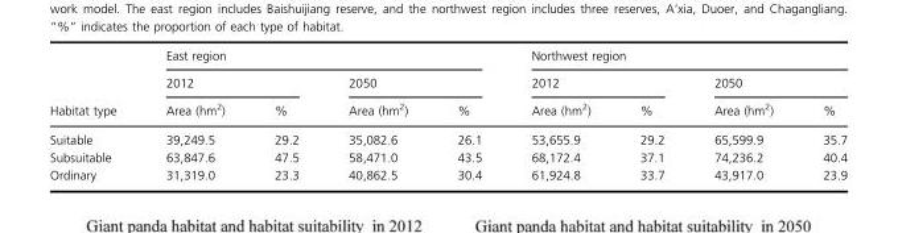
<table><thead><tr><td rowspan="3">Habitat type</td><td colspan="4">East region</td><td colspan="4">Northwest region</td></tr><tr><td colspan="2">2012</td><td colspan="2">2050</td><td colspan="2">2012</td><td colspan="2">2050</td></tr><tr><td>Area (hm<sup>2</sup>)</td><td>%</td><td>Area (hm<sup>2</sup>)</td><td>%</td><td>Area (hm<sup>2</sup>)</td><td>%</td><td>Area (hm<sup>2</sup>)</td><td>%</td></tr></thead><tbody><tr><td>Suitable</td><td>39,249.5</td><td>29.2</td><td>35,082.6</td><td>26.1</td><td>53,655.9</td><td>29.2</td><td>65,599.9</td><td>35.7</td></tr><tr><td>Subsuitable</td><td>63,847.6</td><td>47.5</td><td>58,471.0</td><td>43.5</td><td>68,172.4</td><td>37.1</td><td>74,236.2</td><td>40.4</td></tr><tr><td>Ordinary</td><td>31,319.0</td><td>23.3</td><td>40,862.5</td><td>30.4</td><td>61,924.8</td><td>33.7</td><td>43,917.0</td><td>23.9</td></tr></tbody></table>